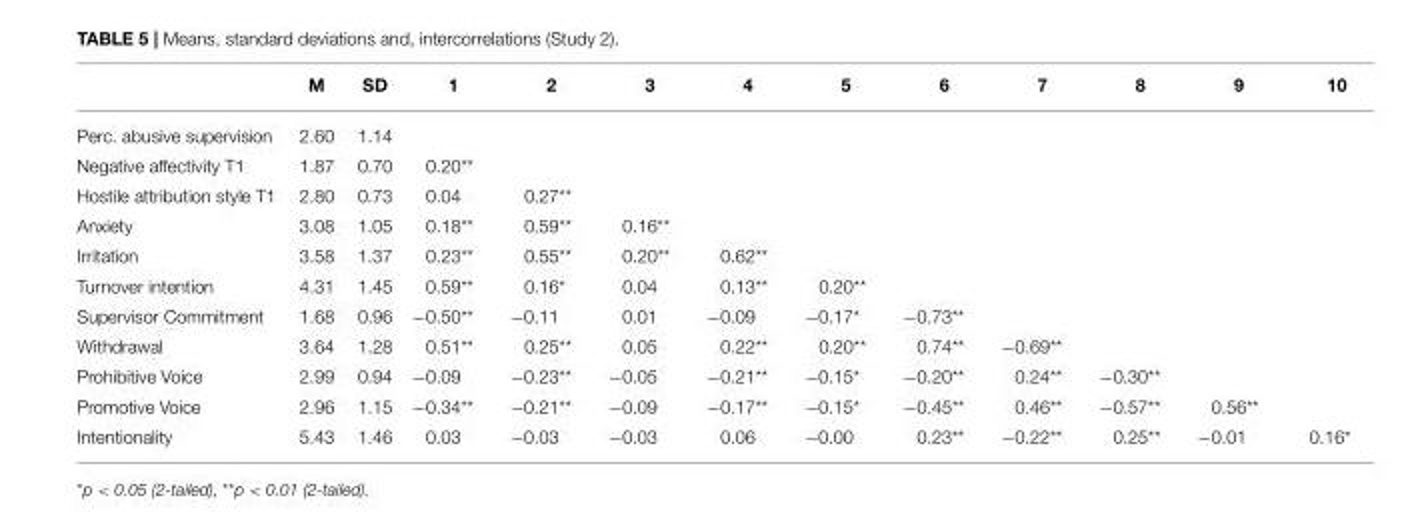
<table><thead><tr><td></td><td>M</td><td>SD</td><td>1</td><td>2</td><td>3</td><td>4</td><td>5</td><td>6</td><td>7</td><td>8</td><td>9</td><td>10</td></tr></thead><tbody><tr><td>Perc. abusive supervision</td><td>2.60</td><td>1.14</td><td></td><td></td><td></td><td></td><td></td><td></td><td></td><td></td><td></td><td></td></tr><tr><td>Negative affectivity T1</td><td>1.87</td><td>0.70</td><td>0.20**</td><td></td><td></td><td></td><td></td><td></td><td></td><td></td><td></td><td></td></tr><tr><td>Hostile attribution style T1</td><td>2.80</td><td>0.73</td><td>0.04</td><td>0.27**</td><td></td><td></td><td></td><td></td><td></td><td></td><td></td><td></td></tr><tr><td>Anxiety</td><td>3.08</td><td>1.05</td><td>0.18**</td><td>0.59**</td><td>0.16**</td><td></td><td></td><td></td><td></td><td></td><td></td><td></td></tr><tr><td>Irritation</td><td>3.58</td><td>1.37</td><td>0.23**</td><td>0.55**</td><td>0.20**</td><td>0.62**</td><td></td><td></td><td></td><td></td><td></td><td></td></tr><tr><td>Turnover intention</td><td>4.31</td><td>1.45</td><td>0.59**</td><td>0.16*</td><td>0.04</td><td>0.13**</td><td>0.20**</td><td></td><td></td><td></td><td></td><td></td></tr><tr><td>Supervisor Commitment</td><td>1.68</td><td>0.96</td><td>−0.50**</td><td>−0.11</td><td>0.01</td><td>−0.09</td><td>−0.17*</td><td>−0.73**</td><td></td><td></td><td></td><td></td></tr><tr><td>Withdrawal</td><td>3.64</td><td>1.28</td><td>0.51**</td><td>0.25**</td><td>0.05</td><td>0.22**</td><td>0.20**</td><td>0.74**</td><td>−0.69**</td><td></td><td></td><td></td></tr><tr><td>Prohibitive Voice</td><td>2.99</td><td>0.94</td><td>−0.09</td><td>−0.23**</td><td>−0.05</td><td>−0.21**</td><td>−0.15*</td><td>−0.20**</td><td>0.24**</td><td>−0.30**</td><td></td><td></td></tr><tr><td>Promotive Voice</td><td>2.96</td><td>1.15</td><td>−0.34**</td><td>−0.21**</td><td>−0.09</td><td>−0.17**</td><td>−0.15*</td><td>−0.45**</td><td>0.46**</td><td>−0.57**</td><td>0.56**</td><td></td></tr><tr><td>Intentionality</td><td>5.43</td><td>1.46</td><td>0.03</td><td>−0.03</td><td>−0.03</td><td>0.06</td><td>−0.00</td><td>0.23**</td><td>−0.22**</td><td>0.25**</td><td>−0.01</td><td>0.16*</td></tr></tbody></table>